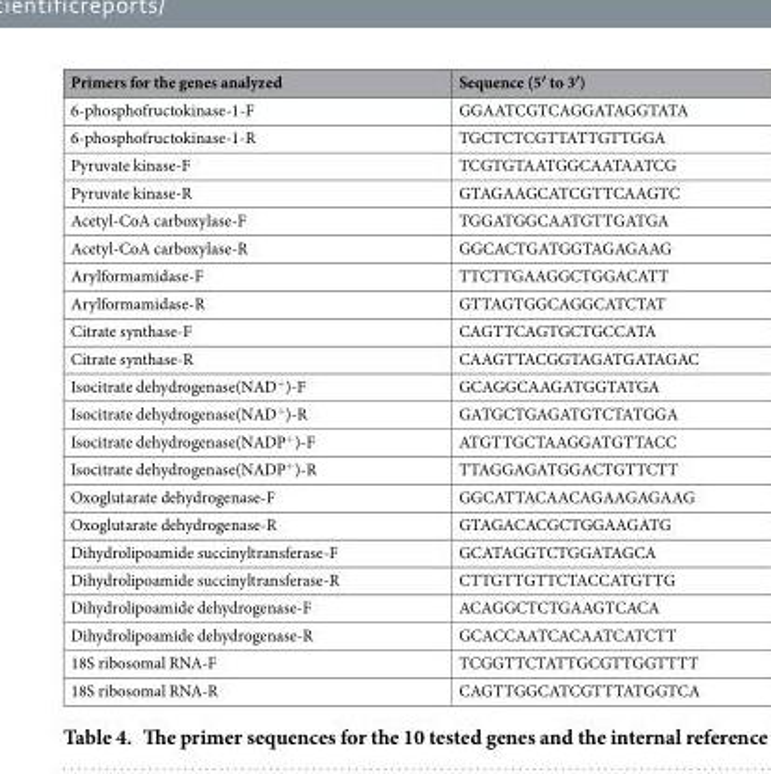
<table><thead><tr><td>Primers for the genes analyzed</td><td>Sequence (5′ to 3′)</td></tr></thead><tbody><tr><td>6-phosphofructokinase-1-F</td><td>GGAATCGTCAGGATAGGTATA</td></tr><tr><td>6-phosphofructokinase-1-R</td><td>TGCTCTCGTTATTGTTGGA</td></tr><tr><td>Pyruvate kinase-F</td><td>TCGTGTAATGGCAATAATCG</td></tr><tr><td>Pyruvate kinase-R</td><td>GTAGAAGCATCGTTCAAGTC</td></tr><tr><td>Acetyl-CoA carboxylase-F</td><td>TGGATGGCAATGTTGATGA</td></tr><tr><td>Acetyl-CoA carboxylase-R</td><td>GGCACTGATGGTAGAGAAG</td></tr><tr><td>Arylformamidase-F</td><td>TTCTTGAAGGCTGGACATT</td></tr><tr><td>Arylformamidase-R</td><td>GTTAGTGGCAGGCATCTAT</td></tr><tr><td>Citrate synthase-F</td><td>CAGTTCAGTGCTGCCATA</td></tr><tr><td>Citrate synthase-R</td><td>CAAGTTACGGTAGATGATAGAC</td></tr><tr><td>Isocitrate dehydrogenase(NAD<sup>+</sup>)-F</td><td>GCAGGCAAGATGGTATGA</td></tr><tr><td>Isocitrate dehydrogenase(NAD<sup>+</sup>)-R</td><td>GATGCTGAGATGTCTATGGA</td></tr><tr><td>Isocitrate dehydrogenase(NADP<sup>+</sup>)-F</td><td>ATGTTGCTAAGGATGTTACC</td></tr><tr><td>Isocitrate dehydrogenase(NADP<sup>+</sup>)-R</td><td>TTAGGAGATGGACTGTTCTT</td></tr><tr><td>Oxoglutarate dehydrogenase-F</td><td>GGCATTACAACAGAAGAGAAG</td></tr><tr><td>Oxoglutarate dehydrogenase-R</td><td>GTAGACACGCTGGAAGATG</td></tr><tr><td>Dihydrolipoamide succinyltransferase-F</td><td>GCATAGGTCTGGATAGCA</td></tr><tr><td>Dihydrolipoamide succinyltransferase-R</td><td>CTTGTTGTTCTACCATGTTG</td></tr><tr><td>Dihydrolipoamide dehydrogenase-F</td><td>ACAGGCTCTGAAGTCACA</td></tr><tr><td>Dihydrolipoamide dehydrogenase-R</td><td>GCACCAATCACAATCATCTT</td></tr><tr><td>18S ribosomal RNA-F</td><td>TCGGTTCTATTGCGTTGGTTTT</td></tr><tr><td>18S ribosomal RNA-R</td><td>CAGTTGGCATCGTTTATGGTCA</td></tr></tbody></table>